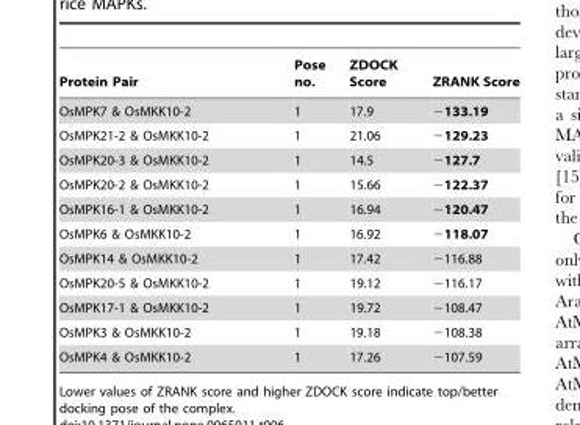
<table><thead><tr><td>Protein Pair</td><td>Pose no.</td><td>ZDOCK Score</td><td>ZRANK Score</td></tr></thead><tbody><tr><td>OsMPK7 &amp; OsMKK10-2</td><td>1</td><td>17.9</td><td>−133.19</td></tr><tr><td>OsMPK21-2 &amp; OsMKK10-2</td><td>1</td><td>21.06</td><td>−129.23</td></tr><tr><td>OsMPK20-3 &amp; OsMKK10-2</td><td>1</td><td>14.5</td><td>−127.7</td></tr><tr><td>OsMPK20-2 &amp; OsMKK10-2</td><td>1</td><td>15.66</td><td>−122.37</td></tr><tr><td>OsMPK16-1 &amp; OsMKK10-2</td><td>1</td><td>16.94</td><td>−120.47</td></tr><tr><td>OsMPK6 &amp; OsMKK10-2</td><td>1</td><td>16.92</td><td>−118.07</td></tr><tr><td>OsMPK14 &amp; OsMKK10-2</td><td>1</td><td>17.42</td><td>−116.88</td></tr><tr><td>OsMPK20-5 &amp; OsMKK10-2</td><td>1</td><td>19.12</td><td>−116.17</td></tr><tr><td>OsMPK17-1 &amp; OsMKK10-2</td><td>1</td><td>19.72</td><td>−108.47</td></tr><tr><td>OsMPK3 &amp; OsMKK10-2</td><td>1</td><td>19.18</td><td>−108.38</td></tr><tr><td>OsMPK4 &amp; OsMKK10-2</td><td>1</td><td>17.26</td><td>−107.59</td></tr></tbody></table>